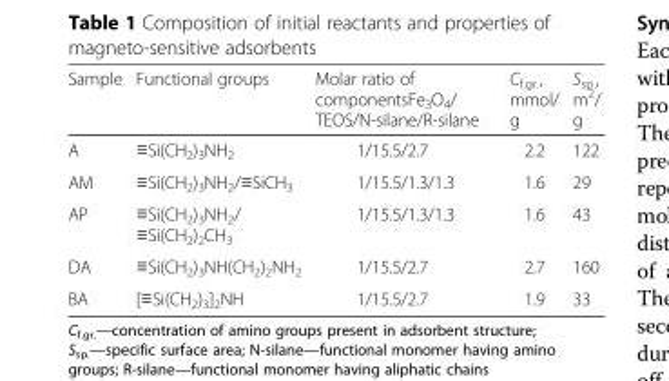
<table><thead><tr><td>Sample</td><td>Functional groups</td><td>Molar ratio of componentsFe<sub>3</sub>O<sub>4</sub>/ TEOS/N-silane/R-silane</td><td>C<sub>f.gr.</sub>, mmol/ g</td><td>S<sub>sp.</sub>, m<sup>2</sup>/ g</td></tr></thead><tbody><tr><td>A</td><td>≡Si(CH<sub>2</sub>)<sub>3</sub>NH<sub>2</sub></td><td>1/15.5/2.7</td><td>2.2</td><td>122</td></tr><tr><td>AM</td><td>≡Si(CH<sub>2</sub>)<sub>3</sub>NH<sub>2</sub>/≡SiCH<sub>3</sub></td><td>1/15.5/1.3/1.3</td><td>1.6</td><td>29</td></tr><tr><td>AP</td><td>≡Si(CH<sub>2</sub>)<sub>3</sub>NH<sub>2</sub>/ ≡Si(CH<sub>2</sub>)<sub>2</sub>CH<sub>3</sub></td><td>1/15.5/1.3/1.3</td><td>1.6</td><td>43</td></tr><tr><td>DA</td><td>≡Si(CH<sub>2</sub>)<sub>3</sub>NH(CH<sub>2</sub>)<sub>2</sub>NH<sub>2</sub></td><td>1/15.5/2.7</td><td>2.7</td><td>160</td></tr><tr><td>BA</td><td>[≡Si(CH<sub>2</sub>)<sub>3</sub>]<sub>2</sub>NH</td><td>1/15.5/2.7</td><td>1.9</td><td>33</td></tr></tbody></table>